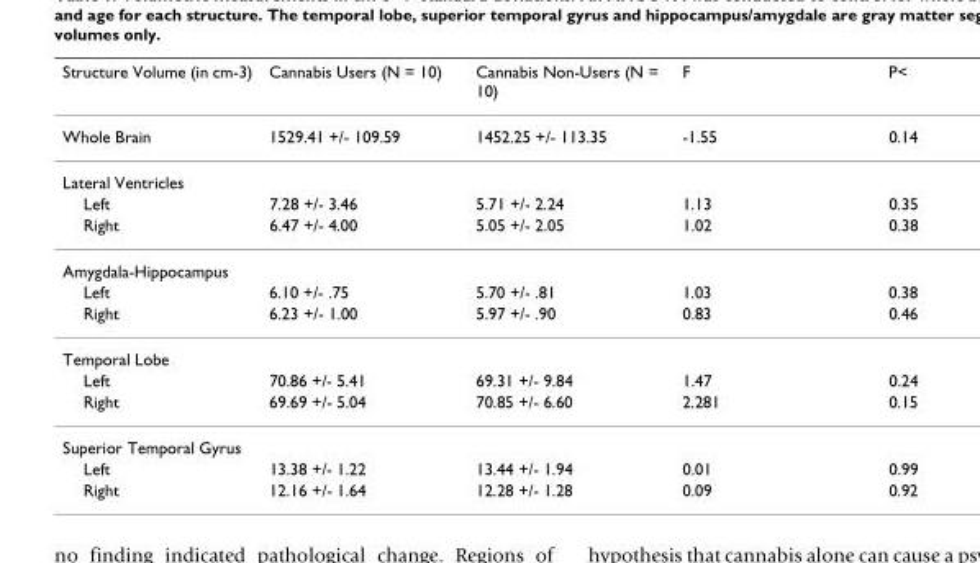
<table><thead><tr><td>Structure Volume (in cm-3)</td><td>Cannabis Users (N = 10)</td><td>Cannabis Non-Users (N = 10)</td><td>F</td><td>P&lt;</td></tr></thead><tbody><tr><td>Whole Brain</td><td>1529.41 +/- 109.59</td><td>1452.25 +/- 113.35</td><td>-1.55</td><td>0.14</td></tr><tr><td colspan="5">Lateral Ventricles</td></tr><tr><td>Left</td><td>7.28 +/- 3.46</td><td>5.71 +/- 2.24</td><td>1.13</td><td>0.35</td></tr><tr><td>Right</td><td>6.47 +/- 4.00</td><td>5.05 +/- 2.05</td><td>1.02</td><td>0.38</td></tr><tr><td colspan="5">Amygdala-Hippocampus</td></tr><tr><td>Left</td><td>6.10 +/- .75</td><td>5.70 +/- .81</td><td>1.03</td><td>0.38</td></tr><tr><td>Right</td><td>6.23 +/- 1.00</td><td>5.97 +/- .90</td><td>0.83</td><td>0.46</td></tr><tr><td colspan="5">Temporal Lobe</td></tr><tr><td>Left</td><td>70.86 +/- 5.41</td><td>69.31 +/- 9.84</td><td>1.47</td><td>0.24</td></tr><tr><td>Right</td><td>69.69 +/- 5.04</td><td>70.85 +/- 6.60</td><td>2.281</td><td>0.15</td></tr><tr><td colspan="5">Superior Temporal Gyrus</td></tr><tr><td>Left</td><td>13.38 +/- 1.22</td><td>13.44 +/- 1.94</td><td>0.01</td><td>0.99</td></tr><tr><td>Right</td><td>12.16 +/- 1.64</td><td>12.28 +/- 1.28</td><td>0.09</td><td>0.92</td></tr></tbody></table>